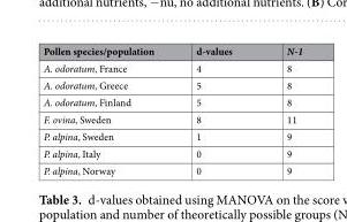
<table><thead><tr><td>Pollen species/population</td><td>d-values</td><td>N-1</td></tr></thead><tbody><tr><td>A. odoratum, France</td><td>4</td><td>8</td></tr><tr><td>A. odoratum, Greece</td><td>5</td><td>8</td></tr><tr><td>A. odoratum, Finland</td><td>5</td><td>8</td></tr><tr><td>F. ovina, Sweden</td><td>8</td><td>11</td></tr><tr><td>P. alpina, Sweden</td><td>1</td><td>9</td></tr><tr><td>P. alpina, Italy</td><td>0</td><td>9</td></tr><tr><td>P. alpina, Norway</td><td>0</td><td>9</td></tr></tbody></table>